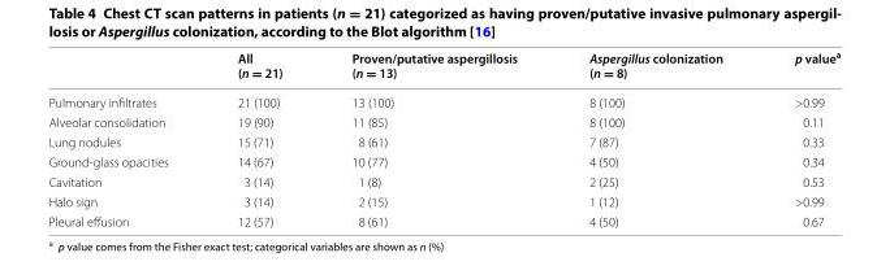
<table><thead><tr><td></td><td>All (n = 21)</td><td>Proven/putative aspergillosis (n = 13)</td><td>Aspergillus colonization (n = 8)</td><td>p value<sup>a</sup></td></tr></thead><tbody><tr><td>Pulmonary infiltrates</td><td>21 (100)</td><td>13 (100)</td><td>8 (100)</td><td>&gt;0.99</td></tr><tr><td>Alveolar consolidation</td><td>19 (90)</td><td>11 (85)</td><td>8 (100)</td><td>0.11</td></tr><tr><td>Lung nodules</td><td>15 (71)</td><td>8 (61)</td><td>7 (87)</td><td>0.33</td></tr><tr><td>Ground‑glass opacities</td><td>14 (67)</td><td>10 (77)</td><td>4 (50)</td><td>0.34</td></tr><tr><td>Cavitation</td><td>3 (14)</td><td>1 (8)</td><td>2 (25)</td><td>0.53</td></tr><tr><td>Halo sign</td><td>3 (14)</td><td>2 (15)</td><td>1 (12)</td><td>&gt;0.99</td></tr><tr><td>Pleural effusion</td><td>12 (57)</td><td>8 (61)</td><td>4 (50)</td><td>0.67</td></tr></tbody></table>